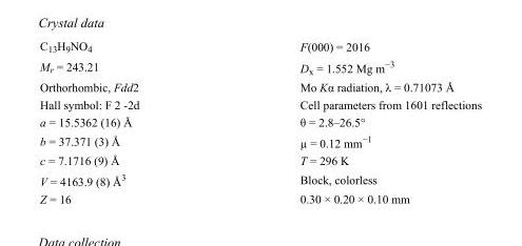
<table><tbody><tr><td>C<sub>13</sub>H<sub>9</sub>NO<sub>4</sub></td><td>F(000) = 2016</td></tr><tr><td>M<sub>r</sub> = 243.21</td><td>D<sub>x</sub> = 1.552 Mg m<sup>−3</sup></td></tr><tr><td>Orthorhombic, Fdd2</td><td>Mo Kα radiation, λ = 0.71073 Å</td></tr><tr><td>Hall symbol: F 2 -2d</td><td>Cell parameters from 1601 reflections</td></tr><tr><td>a = 15.5362 (16) Å</td><td>θ = 2.8–26.5°</td></tr><tr><td>b = 37.371 (3) Å</td><td>µ = 0.12 mm<sup>−1</sup></td></tr><tr><td>c = 7.1716 (9) Å</td><td>T = 296 K</td></tr><tr><td>V = 4163.9 (8) Å<sup>3</sup></td><td>Block, colorless</td></tr><tr><td>Z = 16</td><td>0.30 × 0.20 × 0.10 mm</td></tr></tbody></table>